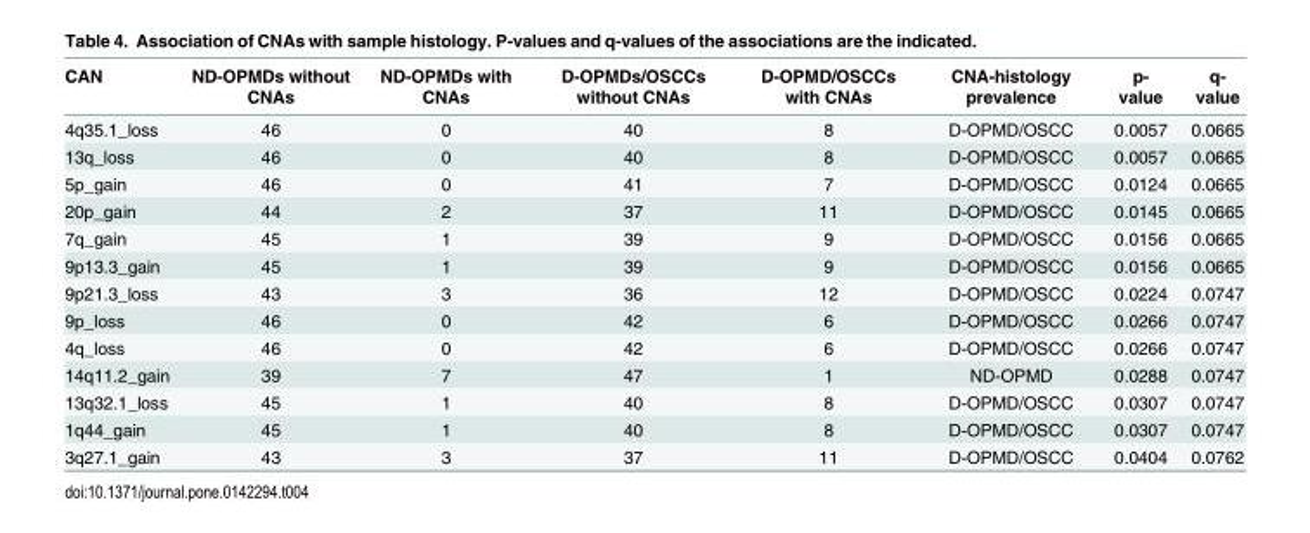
<table><thead><tr><td>CAN</td><td>ND-OPMDs without CNAs</td><td>ND-OPMDs with CNAs</td><td>D-OPMDs/OSCCs without CNAs</td><td>D-OPMD/OSCCs with CNAs</td><td>CNA-histology prevalence</td><td>p- value</td><td>q- value</td></tr></thead><tbody><tr><td>4q35.1_loss</td><td>46</td><td>0</td><td>40</td><td>8</td><td>D-OPMD/OSCC</td><td>0.0057</td><td>0.0665</td></tr><tr><td>13q_loss</td><td>46</td><td>0</td><td>40</td><td>8</td><td>D-OPMD/OSCC</td><td>0.0057</td><td>0.0665</td></tr><tr><td>5p_gain</td><td>46</td><td>0</td><td>41</td><td>7</td><td>D-OPMD/OSCC</td><td>0.0124</td><td>0.0665</td></tr><tr><td>20p_gain</td><td>44</td><td>2</td><td>37</td><td>11</td><td>D-OPMD/OSCC</td><td>0.0145</td><td>0.0665</td></tr><tr><td>7q_gain</td><td>45</td><td>1</td><td>39</td><td>9</td><td>D-OPMD/OSCC</td><td>0.0156</td><td>0.0665</td></tr><tr><td>9p13.3_gain</td><td>45</td><td>1</td><td>39</td><td>9</td><td>D-OPMD/OSCC</td><td>0.0156</td><td>0.0665</td></tr><tr><td>9p21.3_loss</td><td>43</td><td>3</td><td>36</td><td>12</td><td>D-OPMD/OSCC</td><td>0.0224</td><td>0.0747</td></tr><tr><td>9p_loss</td><td>46</td><td>0</td><td>42</td><td>6</td><td>D-OPMD/OSCC</td><td>0.0266</td><td>0.0747</td></tr><tr><td>4q_loss</td><td>46</td><td>0</td><td>42</td><td>6</td><td>D-OPMD/OSCC</td><td>0.0266</td><td>0.0747</td></tr><tr><td>14q11.2_gain</td><td>39</td><td>7</td><td>47</td><td>1</td><td>ND-OPMD</td><td>0.0288</td><td>0.0747</td></tr><tr><td>13q32.1_loss</td><td>45</td><td>1</td><td>40</td><td>8</td><td>D-OPMD/OSCC</td><td>0.0307</td><td>0.0747</td></tr><tr><td>1q44_gain</td><td>45</td><td>1</td><td>40</td><td>8</td><td>D-OPMD/OSCC</td><td>0.0307</td><td>0.0747</td></tr><tr><td>3q27.1_gain</td><td>43</td><td>3</td><td>37</td><td>11</td><td>D-OPMD/OSCC</td><td>0.0404</td><td>0.0762</td></tr></tbody></table>